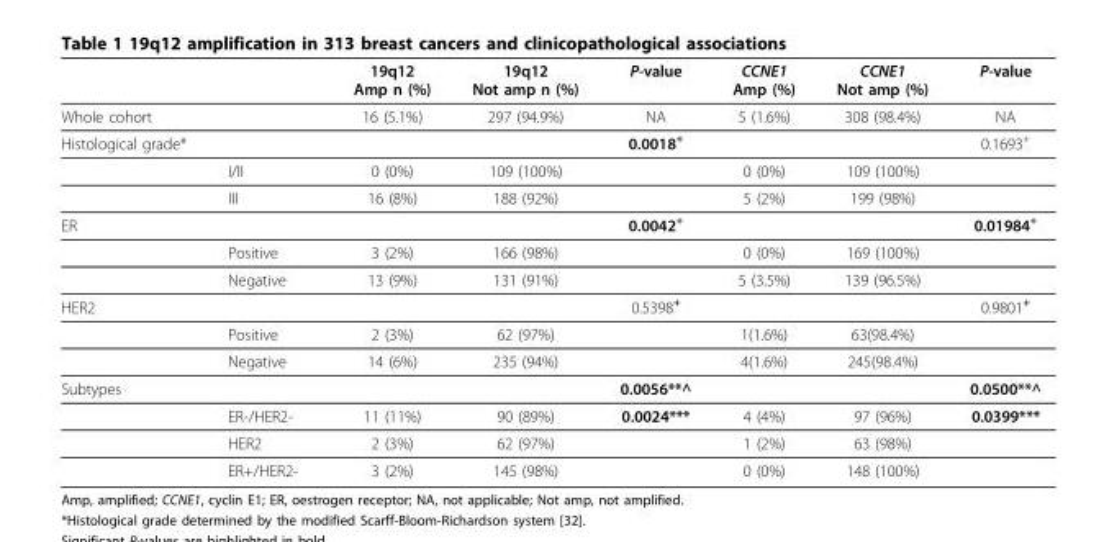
<table><thead><tr><td></td><td></td><td>19q12 Amp n (%)</td><td>19q12 Not amp n (%)</td><td>P-value</td><td>CCNE1 Amp (%)</td><td>CCNE1 Not amp (%)</td><td>P-value</td></tr></thead><tbody><tr><td>Whole cohort</td><td></td><td>16 (5.1%)</td><td>297 (94.9%)</td><td>NA</td><td>5 (1.6%)</td><td>308 (98.4%)</td><td>NA</td></tr><tr><td rowspan="3">Histological grade*</td><td></td><td></td><td></td><td>0.0018<sup>+</sup></td><td></td><td></td><td>0.1693<sup>+</sup></td></tr><tr><td>I/II</td><td>0 (0%)</td><td>109 (100%)</td><td></td><td>0 (0%)</td><td>109 (100%)</td><td></td></tr><tr><td>III</td><td>16 (8%)</td><td>188 (92%)</td><td></td><td>5 (2%)</td><td>199 (98%)</td><td></td></tr><tr><td rowspan="3">ER</td><td></td><td></td><td></td><td>0.0042<sup>+</sup></td><td></td><td></td><td>0.01984<sup>+</sup></td></tr><tr><td>Positive</td><td>3 (2%)</td><td>166 (98%)</td><td></td><td>0 (0%)</td><td>169 (100%)</td><td></td></tr><tr><td>Negative</td><td>13 (9%)</td><td>131 (91%)</td><td></td><td>5 (3.5%)</td><td>139 (96.5%)</td><td></td></tr><tr><td rowspan="3">HER2</td><td></td><td></td><td></td><td>0.5398<sup>+</sup></td><td></td><td></td><td>0.9801<sup>+</sup></td></tr><tr><td>Positive</td><td>2 (3%)</td><td>62 (97%)</td><td></td><td>1(1.6%)</td><td>63(98.4%)</td><td></td></tr><tr><td>Negative</td><td>14 (6%)</td><td>235 (94%)</td><td></td><td>4(1.6%)</td><td>245(98.4%)</td><td></td></tr><tr><td rowspan="4">Subtypes</td><td></td><td></td><td></td><td>0.0056**^</td><td></td><td></td><td>0.0500**^</td></tr><tr><td>ER-/HER2-</td><td>11 (11%)</td><td>90 (89%)</td><td>0.0024***</td><td>4 (4%)</td><td>97 (96%)</td><td>0.0399***</td></tr><tr><td>HER2</td><td>2 (3%)</td><td>62 (97%)</td><td></td><td>1 (2%)</td><td>63 (98%)</td><td></td></tr><tr><td>ER+/HER2-</td><td>3 (2%)</td><td>145 (98%)</td><td></td><td>0 (0%)</td><td>148 (100%)</td><td></td></tr></tbody></table>